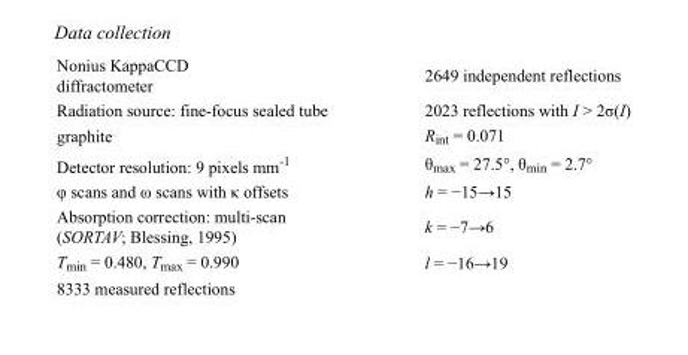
<table><tbody><tr><td>Nonius KappaCCD diffractometer</td><td>2649 independent reflections</td></tr><tr><td>Radiation source: fine-focus sealed tube</td><td>2023 reflections with I &gt; 2σ(I)</td></tr><tr><td>graphite</td><td>R<sub>int</sub> = 0.071</td></tr><tr><td>Detector resolution: 9 pixels mm<sup>-1</sup></td><td>θ<sub>max</sub> = 27.5°, θ<sub>min</sub> = 2.7°</td></tr><tr><td>φ scans and ω scans with κ offsets</td><td>h = −15→15</td></tr><tr><td>Absorption correction: multi-scan (SORTAV; Blessing, 1995)</td><td>k = −7→6</td></tr><tr><td>T<sub>min</sub> = 0.480, T<sub>max</sub> = 0.990</td><td>l = −16→19</td></tr><tr><td>8333 measured reflections</td><td></td></tr></tbody></table>